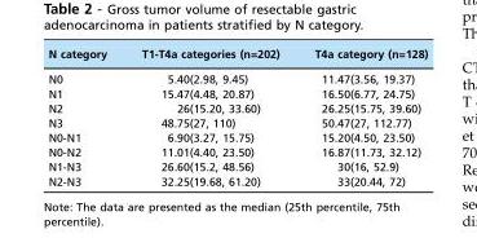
<table><thead><tr><td>N category</td><td>T1-T4a categories (n=202)</td><td>T4a category (n=128)</td></tr></thead><tbody><tr><td>N0</td><td>5.40(2.98, 9.45)</td><td>11.47(3.56, 19.37)</td></tr><tr><td>N1</td><td>15.47(4.48, 20.87)</td><td>16.50(6.77, 24.75)</td></tr><tr><td>N2</td><td>26(15.20, 33.60)</td><td>26.25(15.75, 39.60)</td></tr><tr><td>N3</td><td>48.75(27, 110)</td><td>50.47(27, 112.77)</td></tr><tr><td>N0-N1</td><td>6.90(3.27, 15.75)</td><td>15.20(4.50, 23.50)</td></tr><tr><td>N0-N2</td><td>11.01(4.40, 23.50)</td><td>16.87(11.73, 32.12)</td></tr><tr><td>N1-N3</td><td>26.60(15.2, 48.56)</td><td>30(16, 52.9)</td></tr><tr><td>N2-N3</td><td>32.25(19.68, 61.20)</td><td>33(20.44, 72)</td></tr></tbody></table>